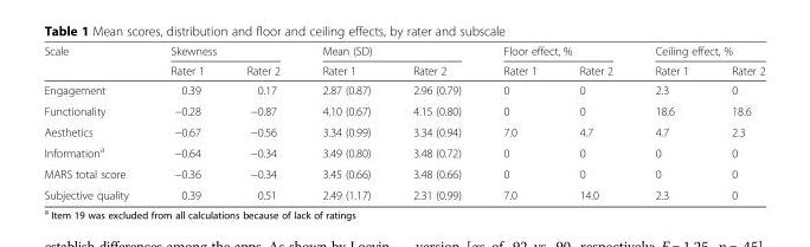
<table><thead><tr><td rowspan="2">Scale</td><td colspan="2">Skewness</td><td colspan="2">Mean (SD)</td><td colspan="2">Floor effect, %</td><td colspan="2">Ceiling effect, %</td></tr><tr><td>Rater 1</td><td>Rater 2</td><td>Rater 1</td><td>Rater 2</td><td>Rater 1</td><td>Rater 2</td><td>Rater 1</td><td>Rater 2</td></tr></thead><tbody><tr><td>Engagement</td><td>0.39</td><td>0.17</td><td>2.87 (0.87)</td><td>2.96 (0.79)</td><td>0</td><td>0</td><td>2.3</td><td>0</td></tr><tr><td>Functionality</td><td>−0.28</td><td>−0.87</td><td>4.10 (0.67)</td><td>4.15 (0.80)</td><td>0</td><td>0</td><td>18.6</td><td>18.6</td></tr><tr><td>Aesthetics</td><td>−0.67</td><td>−0.56</td><td>3.34 (0.99)</td><td>3.34 (0.94)</td><td>7.0</td><td>4.7</td><td>4.7</td><td>2.3</td></tr><tr><td>Information<sup>a</sup></td><td>−0.64</td><td>−0.34</td><td>3.49 (0.80)</td><td>3.48 (0.72)</td><td>0</td><td>0</td><td>0</td><td>0</td></tr><tr><td>MARS total score</td><td>−0.36</td><td>−0.34</td><td>3.45 (0.66)</td><td>3.48 (0.66)</td><td>0</td><td>0</td><td>0</td><td>0</td></tr><tr><td>Subjective quality</td><td>0.39</td><td>0.51</td><td>2.49 (1.17)</td><td>2.31 (0.99)</td><td>7.0</td><td>14.0</td><td>2.3</td><td>0</td></tr></tbody></table>